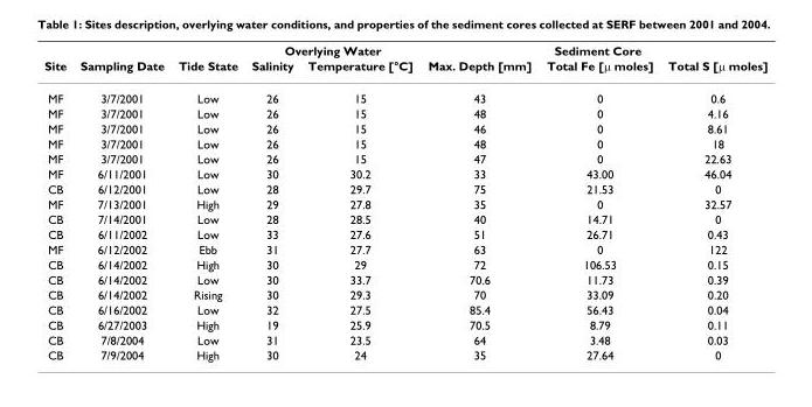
<table><thead><tr><td rowspan="2">Site</td><td rowspan="2">Sampling Date</td><td rowspan="2">Tide State</td><td colspan="2">Overlying Water</td><td colspan="3">Sediment Core</td></tr><tr><td>Salinity</td><td>Temperature [°C]</td><td>Max. Depth [mm]</td><td>Total Fe [µ moles]</td><td>Total S [µ moles]</td></tr></thead><tbody><tr><td>MF</td><td>3/7/2001</td><td>Low</td><td>26</td><td>15</td><td>43</td><td>0</td><td>0.6</td></tr><tr><td>MF</td><td>3/7/2001</td><td>Low</td><td>26</td><td>15</td><td>48</td><td>0</td><td>4.16</td></tr><tr><td>MF</td><td>3/7/2001</td><td>Low</td><td>26</td><td>15</td><td>46</td><td>0</td><td>8.61</td></tr><tr><td>MF</td><td>3/7/2001</td><td>Low</td><td>26</td><td>15</td><td>48</td><td>0</td><td>18</td></tr><tr><td>MF</td><td>3/7/2001</td><td>Low</td><td>26</td><td>15</td><td>47</td><td>0</td><td>22.63</td></tr><tr><td>MF</td><td>6/11/2001</td><td>Low</td><td>30</td><td>30.2</td><td>33</td><td>43.00</td><td>46.04</td></tr><tr><td>CB</td><td>6/12/2001</td><td>Low</td><td>28</td><td>29.7</td><td>75</td><td>21.53</td><td>0</td></tr><tr><td>MF</td><td>7/13/2001</td><td>High</td><td>29</td><td>27.8</td><td>35</td><td>0</td><td>32.57</td></tr><tr><td>CB</td><td>7/14/2001</td><td>Low</td><td>28</td><td>28.5</td><td>40</td><td>14.71</td><td>0</td></tr><tr><td>CB</td><td>6/11/2002</td><td>Low</td><td>33</td><td>27.6</td><td>51</td><td>26.71</td><td>0.43</td></tr><tr><td>MF</td><td>6/12/2002</td><td>Ebb</td><td>31</td><td>27.7</td><td>63</td><td>0</td><td>122</td></tr><tr><td>CB</td><td>6/14/2002</td><td>High</td><td>30</td><td>29</td><td>72</td><td>106.53</td><td>0.15</td></tr><tr><td>CB</td><td>6/14/2002</td><td>Low</td><td>30</td><td>33.7</td><td>70.6</td><td>11.73</td><td>0.39</td></tr><tr><td>CB</td><td>6/14/2002</td><td>Rising</td><td>30</td><td>29.3</td><td>70</td><td>33.09</td><td>0.20</td></tr><tr><td>CB</td><td>6/16/2002</td><td>Low</td><td>32</td><td>27.5</td><td>85.4</td><td>56.43</td><td>0.04</td></tr><tr><td>CB</td><td>6/27/2003</td><td>High</td><td>19</td><td>25.9</td><td>70.5</td><td>8.79</td><td>0.11</td></tr><tr><td>CB</td><td>7/8/2004</td><td>Low</td><td>31</td><td>23.5</td><td>64</td><td>3.48</td><td>0.03</td></tr><tr><td>CB</td><td>7/9/2004</td><td>High</td><td>30</td><td>24</td><td>35</td><td>27.64</td><td>0</td></tr></tbody></table>